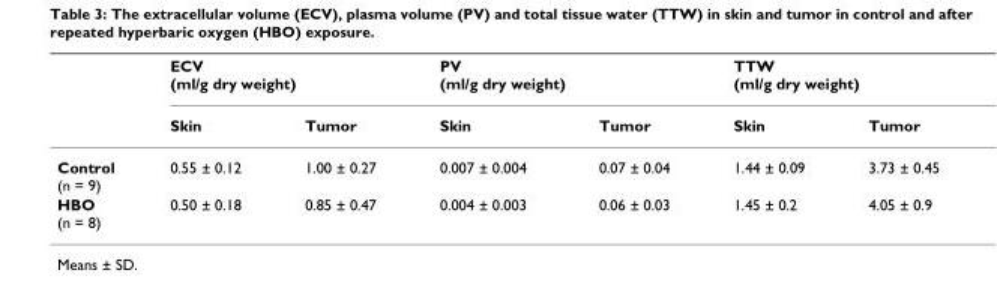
<table><thead><tr><td rowspan="2"></td><td colspan="2">ECV (ml/g dry weight)</td><td colspan="2">PV (ml/g dry weight)</td><td colspan="2">TTW (ml/g dry weight)</td></tr><tr><td>Skin</td><td>Tumor</td><td>Skin</td><td>Tumor</td><td>Skin</td><td>Tumor</td></tr></thead><tbody><tr><td>Control (n = 9)</td><td>0.55 ± 0.12</td><td>1.00 ± 0.27</td><td>0.007 ± 0.004</td><td>0.07 ± 0.04</td><td>1.44 ± 0.09</td><td>3.73 ± 0.45</td></tr><tr><td>HBO (n = 8)</td><td>0.50 ± 0.18</td><td>0.85 ± 0.47</td><td>0.004 ± 0.003</td><td>0.06 ± 0.03</td><td>1.45 ± 0.2</td><td>4.05 ± 0.9</td></tr></tbody></table>